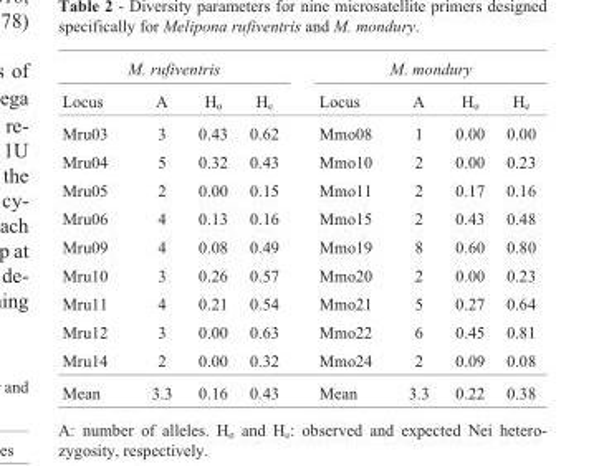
<table><thead><tr><td colspan="4">M. rufiventris</td><td colspan="4">M. mondury</td></tr><tr><td>Locus</td><td>A</td><td>H<sub>o</sub></td><td>H<sub>e</sub></td><td>Locus</td><td>A</td><td>H<sub>o</sub></td><td>H<sub>e</sub></td></tr></thead><tbody><tr><td>Mru03</td><td>3</td><td>0.43</td><td>0.62</td><td>Mmo08</td><td>1</td><td>0.00</td><td>0.00</td></tr><tr><td>Mru04</td><td>5</td><td>0.32</td><td>0.43</td><td>Mmo10</td><td>2</td><td>0.00</td><td>0.23</td></tr><tr><td>Mru05</td><td>2</td><td>0.00</td><td>0.15</td><td>Mmo11</td><td>2</td><td>0.17</td><td>0.16</td></tr><tr><td>Mru06</td><td>4</td><td>0.13</td><td>0.16</td><td>Mmo15</td><td>2</td><td>0.43</td><td>0.48</td></tr><tr><td>Mru09</td><td>4</td><td>0.08</td><td>0.49</td><td>Mmo19</td><td>8</td><td>0.60</td><td>0.80</td></tr><tr><td>Mru10</td><td>3</td><td>0.26</td><td>0.57</td><td>Mmo20</td><td>2</td><td>0.00</td><td>0.23</td></tr><tr><td>Mru11</td><td>4</td><td>0.21</td><td>0.54</td><td>Mmo21</td><td>5</td><td>0.27</td><td>0.64</td></tr><tr><td>Mru12</td><td>3</td><td>0.00</td><td>0.63</td><td>Mmo22</td><td>6</td><td>0.45</td><td>0.81</td></tr><tr><td>Mru14</td><td>2</td><td>0.00</td><td>0.32</td><td>Mmo24</td><td>2</td><td>0.09</td><td>0.08</td></tr><tr><td>Mean</td><td>3.3</td><td>0.16</td><td>0.43</td><td>Mean</td><td>3.3</td><td>0.22</td><td>0.38</td></tr></tbody></table>